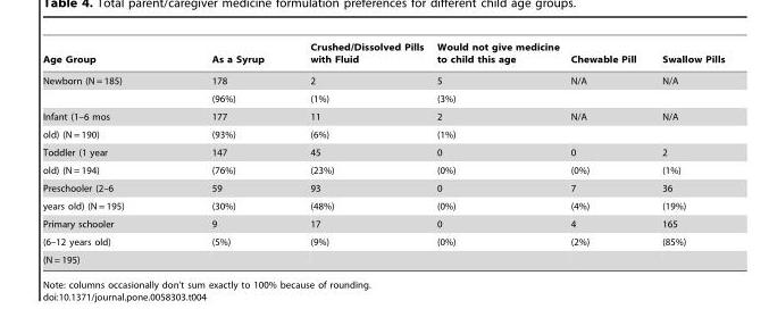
<table><thead><tr><td>Age Group</td><td>As a Syrup</td><td>Crushed/Dissolved Pills with Fluid</td><td>Would not give medicine to child this age</td><td>Chewable Pill</td><td>Swallow Pills</td></tr></thead><tbody><tr><td rowspan="2">Newborn (N = 185)</td><td>178</td><td>2</td><td>5</td><td>N/A</td><td>N/A</td></tr><tr><td>(96%)</td><td>(1%)</td><td>(3%)</td><td></td><td></td></tr><tr><td>Infant (1–6 mos</td><td>177</td><td>11</td><td>2</td><td>N/A</td><td>N/A</td></tr><tr><td>old) (N = 190)</td><td>(93%)</td><td>(6%)</td><td>(1%)</td><td></td><td></td></tr><tr><td>Toddler (1 year</td><td>147</td><td>45</td><td>0</td><td>0</td><td>2</td></tr><tr><td>old) (N = 194)</td><td>(76%)</td><td>(23%)</td><td>(0%)</td><td>(0%)</td><td>(1%)</td></tr><tr><td>Preschooler (2–6</td><td>59</td><td>93</td><td>0</td><td>7</td><td>36</td></tr><tr><td>years old) (N = 195)</td><td>(30%)</td><td>(48%)</td><td>(0%)</td><td>(4%)</td><td>(19%)</td></tr><tr><td>Primary schooler</td><td>9</td><td>17</td><td>0</td><td>4</td><td>165</td></tr><tr><td>(6–12 years old)</td><td>(5%)</td><td>(9%)</td><td>(0%)</td><td>(2%)</td><td>(85%)</td></tr><tr><td>(N = 195)</td><td></td><td></td><td></td><td></td><td></td></tr></tbody></table>